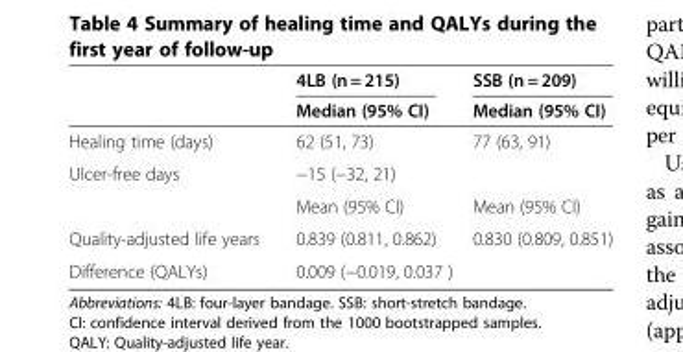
<table><thead><tr><td rowspan="2"></td><td rowspan="2">4LB (n = 215) Median (95% CI)</td><td rowspan="2">SSB (n = 209) Median (95% CI)</td></tr><tr></tr></thead><tbody><tr><td>Healing time (days)</td><td>62 (51, 73)</td><td>77 (63, 91)</td></tr><tr><td rowspan="2">Ulcer-free days</td><td colspan="2">−15 (−32, 21)</td></tr><tr><td>Mean (95% CI)</td><td>Mean (95% CI)</td></tr><tr><td>Quality-adjusted life years</td><td>0.839 (0.811, 0.862)</td><td>0.830 (0.809, 0.851)</td></tr><tr><td>Difference (QALYs)</td><td colspan="2">0.009 (−0.019, 0.037 )</td></tr></tbody></table>